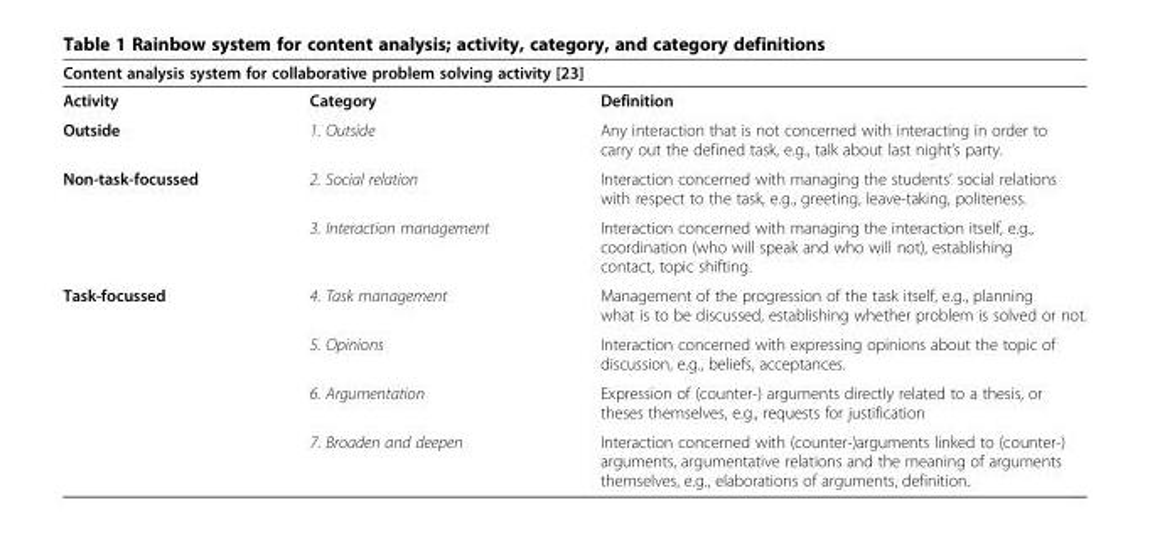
<table><thead><tr><td colspan="3">Content analysis system for collaborative problem solving activity [23]</td></tr><tr><td>Activity</td><td>Category</td><td>Definition</td></tr></thead><tbody><tr><td>Outside</td><td>1. Outside</td><td>Any interaction that is not concerned with interacting in order to carry out the defined task, e.g., talk about last night’s party.</td></tr><tr><td rowspan="2">Non-task-focussed</td><td>2. Social relation</td><td>Interaction concerned with managing the students’ social relations with respect to the task, e.g., greeting, leave-taking, politeness.</td></tr><tr><td>3. Interaction management</td><td>Interaction concerned with managing the interaction itself, e.g., coordination (who will speak and who will not), establishing contact, topic shifting.</td></tr><tr><td rowspan="4">Task-focussed</td><td>4. Task management</td><td>Management of the progression of the task itself, e.g., planning what is to be discussed, establishing whether problem is solved or not.</td></tr><tr><td>5. Opinions</td><td>Interaction concerned with expressing opinions about the topic of discussion, e.g., beliefs, acceptances.</td></tr><tr><td>6. Argumentation</td><td>Expression of (counter-) arguments directly related to a thesis, or theses themselves, e.g., requests for justification</td></tr><tr><td>7. Broaden and deepen</td><td>Interaction concerned with (counter-)arguments linked to (counter-) arguments, argumentative relations and the meaning of arguments themselves, e.g., elaborations of arguments, definition.</td></tr></tbody></table>